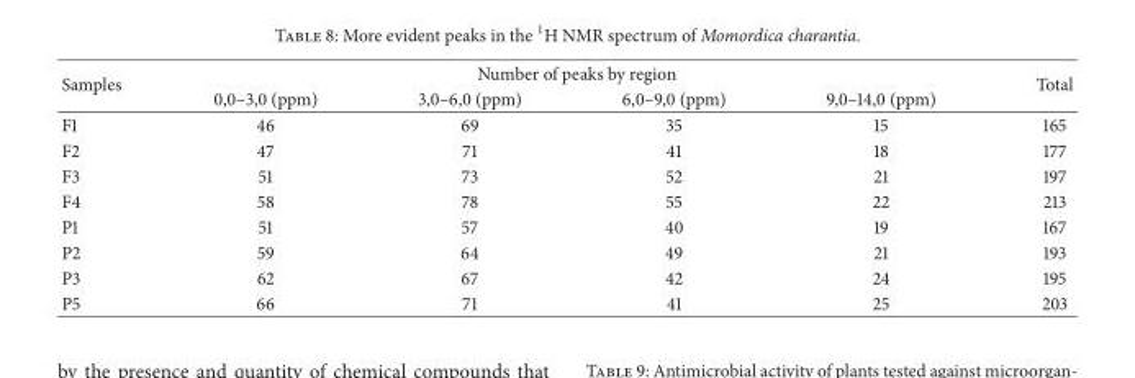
<table><thead><tr><td rowspan="2">Samples</td><td colspan="4">Number of peaks by region</td><td rowspan="2">Total</td></tr><tr><td>0,0–3,0 (ppm)</td><td>3,0–6,0 (ppm)</td><td>6,0–9,0 (ppm)</td><td>9,0–14,0 (ppm)</td></tr></thead><tbody><tr><td>F1</td><td>46</td><td>69</td><td>35</td><td>15</td><td>165</td></tr><tr><td>F2</td><td>47</td><td>71</td><td>41</td><td>18</td><td>177</td></tr><tr><td>F3</td><td>51</td><td>73</td><td>52</td><td>21</td><td>197</td></tr><tr><td>F4</td><td>58</td><td>78</td><td>55</td><td>22</td><td>213</td></tr><tr><td>P1</td><td>51</td><td>57</td><td>40</td><td>19</td><td>167</td></tr><tr><td>P2</td><td>59</td><td>64</td><td>49</td><td>21</td><td>193</td></tr><tr><td>P3</td><td>62</td><td>67</td><td>42</td><td>24</td><td>195</td></tr><tr><td>P5</td><td>66</td><td>71</td><td>41</td><td>25</td><td>203</td></tr></tbody></table>